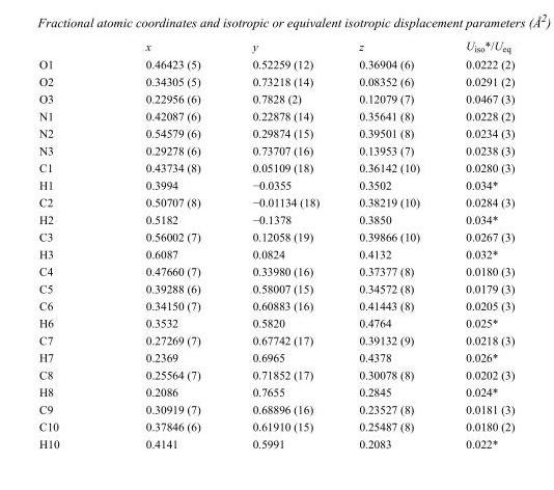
<table><thead><tr><td></td><td>x</td><td>y</td><td>z</td><td>U<sub>iso</sub>*/U<sub>eq</sub></td></tr></thead><tbody><tr><td>O1</td><td>0.46423 (5)</td><td>0.52259 (12)</td><td>0.36904 (6)</td><td>0.0222 (2)</td></tr><tr><td>O2</td><td>0.34305 (5)</td><td>0.73218 (14)</td><td>0.08352 (6)</td><td>0.0291 (2)</td></tr><tr><td>O3</td><td>0.22956 (6)</td><td>0.7828 (2)</td><td>0.12079 (7)</td><td>0.0467 (3)</td></tr><tr><td>N1</td><td>0.42087 (6)</td><td>0.22878 (14)</td><td>0.35641 (8)</td><td>0.0228 (2)</td></tr><tr><td>N2</td><td>0.54579 (6)</td><td>0.29874 (15)</td><td>0.39501 (8)</td><td>0.0234 (3)</td></tr><tr><td>N3</td><td>0.29278 (6)</td><td>0.73707 (16)</td><td>0.13953 (7)</td><td>0.0238 (3)</td></tr><tr><td>C1</td><td>0.43734 (8)</td><td>0.05109 (18)</td><td>0.36142 (10)</td><td>0.0280 (3)</td></tr><tr><td>H1</td><td>0.3994</td><td>−0.0355</td><td>0.3502</td><td>0.034*</td></tr><tr><td>C2</td><td>0.50707 (8)</td><td>−0.01134 (18)</td><td>0.38219 (10)</td><td>0.0284 (3)</td></tr><tr><td>H2</td><td>0.5182</td><td>−0.1378</td><td>0.3850</td><td>0.034*</td></tr><tr><td>C3</td><td>0.56002 (7)</td><td>0.12058 (19)</td><td>0.39866 (10)</td><td>0.0267 (3)</td></tr><tr><td>H3</td><td>0.6087</td><td>0.0824</td><td>0.4132</td><td>0.032*</td></tr><tr><td>C4</td><td>0.47660 (7)</td><td>0.33980 (16)</td><td>0.37377 (8)</td><td>0.0180 (3)</td></tr><tr><td>C5</td><td>0.39288 (6)</td><td>0.58007 (15)</td><td>0.34572 (8)</td><td>0.0179 (3)</td></tr><tr><td>C6</td><td>0.34150 (7)</td><td>0.60883 (16)</td><td>0.41443 (8)</td><td>0.0205 (3)</td></tr><tr><td>H6</td><td>0.3532</td><td>0.5820</td><td>0.4764</td><td>0.025*</td></tr><tr><td>C7</td><td>0.27269 (7)</td><td>0.67742 (17)</td><td>0.39132 (9)</td><td>0.0218 (3)</td></tr><tr><td>H7</td><td>0.2369</td><td>0.6965</td><td>0.4378</td><td>0.026*</td></tr><tr><td>C8</td><td>0.25564 (7)</td><td>0.71852 (17)</td><td>0.30078 (8)</td><td>0.0202 (3)</td></tr><tr><td>H8</td><td>0.2086</td><td>0.7655</td><td>0.2845</td><td>0.024*</td></tr><tr><td>C9</td><td>0.30919 (7)</td><td>0.68896 (16)</td><td>0.23527 (8)</td><td>0.0181 (3)</td></tr><tr><td>C10</td><td>0.37846 (6)</td><td>0.61910 (15)</td><td>0.25487 (8)</td><td>0.0180 (2)</td></tr><tr><td>H10</td><td>0.4141</td><td>0.5991</td><td>0.2083</td><td>0.022*</td></tr></tbody></table>